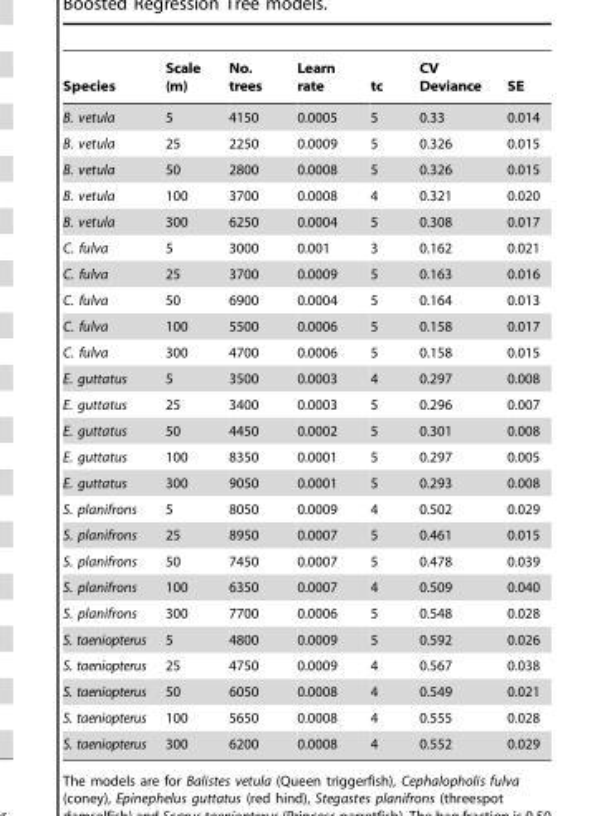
<table><thead><tr><td>Species</td><td>Scale (m)</td><td>No. trees</td><td>Learn rate</td><td>tc</td><td>CV Deviance</td><td>SE</td></tr></thead><tbody><tr><td>B. vetula</td><td>5</td><td>4150</td><td>0.0005</td><td>5</td><td>0.33</td><td>0.014</td></tr><tr><td>B. vetula</td><td>25</td><td>2250</td><td>0.0009</td><td>5</td><td>0.326</td><td>0.015</td></tr><tr><td>B. vetula</td><td>50</td><td>2800</td><td>0.0008</td><td>5</td><td>0.326</td><td>0.015</td></tr><tr><td>B. vetula</td><td>100</td><td>3700</td><td>0.0008</td><td>4</td><td>0.321</td><td>0.020</td></tr><tr><td>B. vetula</td><td>300</td><td>6250</td><td>0.0004</td><td>5</td><td>0.308</td><td>0.017</td></tr><tr><td>C. fulva</td><td>5</td><td>3000</td><td>0.001</td><td>3</td><td>0.162</td><td>0.021</td></tr><tr><td>C. fulva</td><td>25</td><td>3700</td><td>0.0009</td><td>5</td><td>0.163</td><td>0.016</td></tr><tr><td>C. fulva</td><td>50</td><td>6900</td><td>0.0004</td><td>5</td><td>0.164</td><td>0.013</td></tr><tr><td>C. fulva</td><td>100</td><td>5500</td><td>0.0006</td><td>5</td><td>0.158</td><td>0.017</td></tr><tr><td>C. fulva</td><td>300</td><td>4700</td><td>0.0006</td><td>5</td><td>0.158</td><td>0.015</td></tr><tr><td>E. guttatus</td><td>5</td><td>3500</td><td>0.0003</td><td>4</td><td>0.297</td><td>0.008</td></tr><tr><td>E. guttatus</td><td>25</td><td>3400</td><td>0.0003</td><td>5</td><td>0.296</td><td>0.007</td></tr><tr><td>E. guttatus</td><td>50</td><td>4450</td><td>0.0002</td><td>5</td><td>0.301</td><td>0.008</td></tr><tr><td>E. guttatus</td><td>100</td><td>8350</td><td>0.0001</td><td>5</td><td>0.297</td><td>0.005</td></tr><tr><td>E. guttatus</td><td>300</td><td>9050</td><td>0.0001</td><td>5</td><td>0.293</td><td>0.008</td></tr><tr><td>S. planifrons</td><td>5</td><td>8050</td><td>0.0009</td><td>4</td><td>0.502</td><td>0.029</td></tr><tr><td>S. planifrons</td><td>25</td><td>8950</td><td>0.0007</td><td>5</td><td>0.461</td><td>0.015</td></tr><tr><td>S. planifrons</td><td>50</td><td>7450</td><td>0.0007</td><td>5</td><td>0.478</td><td>0.039</td></tr><tr><td>S. planifrons</td><td>100</td><td>6350</td><td>0.0007</td><td>4</td><td>0.509</td><td>0.040</td></tr><tr><td>S. planifrons</td><td>300</td><td>7700</td><td>0.0006</td><td>5</td><td>0.548</td><td>0.028</td></tr><tr><td>S. taeniopterus</td><td>5</td><td>4800</td><td>0.0009</td><td>5</td><td>0.592</td><td>0.026</td></tr><tr><td>S. taeniopterus</td><td>25</td><td>4750</td><td>0.0009</td><td>4</td><td>0.567</td><td>0.038</td></tr><tr><td>S. taeniopterus</td><td>50</td><td>6050</td><td>0.0008</td><td>4</td><td>0.549</td><td>0.021</td></tr><tr><td>S. taeniopterus</td><td>100</td><td>5650</td><td>0.0008</td><td>4</td><td>0.555</td><td>0.028</td></tr><tr><td>S. taeniopterus</td><td>300</td><td>6200</td><td>0.0008</td><td>4</td><td>0.552</td><td>0.029</td></tr></tbody></table>